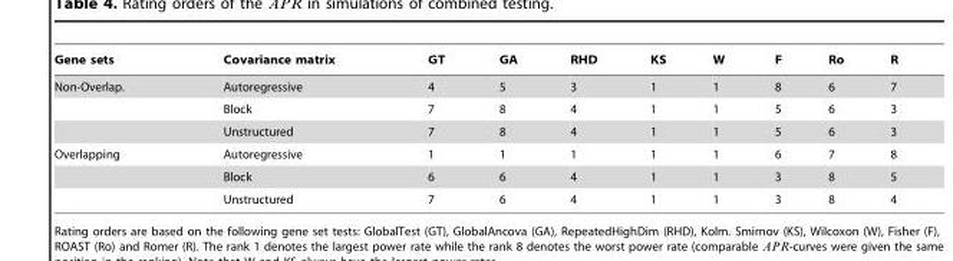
<table><thead><tr><td>Gene sets</td><td>Covariance matrix</td><td>GT</td><td>GA</td><td>RHD</td><td>KS</td><td>W</td><td>F</td><td>Ro</td><td>R</td></tr></thead><tbody><tr><td rowspan="3">Non-Overlap.</td><td>Autoregressive</td><td>4</td><td>5</td><td>3</td><td>1</td><td>1</td><td>8</td><td>6</td><td>7</td></tr><tr><td>Block</td><td>7</td><td>8</td><td>4</td><td>1</td><td>1</td><td>5</td><td>6</td><td>3</td></tr><tr><td>Unstructured</td><td>7</td><td>8</td><td>4</td><td>1</td><td>1</td><td>5</td><td>6</td><td>3</td></tr><tr><td rowspan="3">Overlapping</td><td>Autoregressive</td><td>1</td><td>1</td><td>1</td><td>1</td><td>1</td><td>6</td><td>7</td><td>8</td></tr><tr><td>Block</td><td>6</td><td>6</td><td>4</td><td>1</td><td>1</td><td>3</td><td>8</td><td>5</td></tr><tr><td>Unstructured</td><td>7</td><td>6</td><td>4</td><td>1</td><td>1</td><td>3</td><td>8</td><td>4</td></tr></tbody></table>